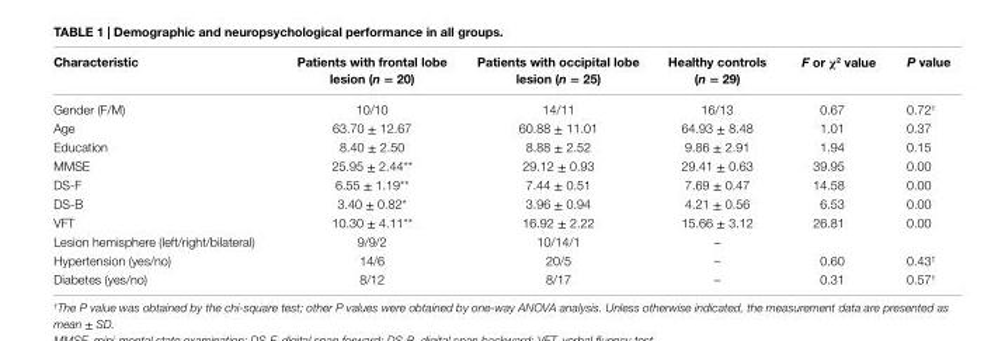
<table><thead><tr><td>characteristic</td><td>Patients with frontal lobe lesion (n = 20)</td><td>Patients with occipital lobe lesion (n = 25)</td><td>healthy controls (n = 29)</td><td>F or χ<sup>2</sup> value</td><td>P value</td></tr></thead><tbody><tr><td>Gender (F/M)</td><td>10/10</td><td>14/11</td><td>16/13</td><td>0.67</td><td>0.72<sup>†</sup></td></tr><tr><td>Age</td><td>63.70 ± 12.67</td><td>60.88 ± 11.01</td><td>64.93 ± 8.48</td><td>1.01</td><td>0.37</td></tr><tr><td>Education</td><td>8.40 ± 2.50</td><td>8.88 ± 2.52</td><td>9.86 ± 2.91</td><td>1.94</td><td>0.15</td></tr><tr><td>MMSE</td><td>25.95 ± 2.44**</td><td>29.12 ± 0.93</td><td>29.41 ± 0.63</td><td>39.95</td><td>0.00</td></tr><tr><td>DS-F</td><td>6.55 ± 1.19**</td><td>7.44 ± 0.51</td><td>7.69 ± 0.47</td><td>14.58</td><td>0.00</td></tr><tr><td>DS-B</td><td>3.40 ± 0.82*</td><td>3.96 ± 0.94</td><td>4.21 ± 0.56</td><td>6.53</td><td>0.00</td></tr><tr><td>VFT</td><td>10.30 ± 4.11**</td><td>16.92 ± 2.22</td><td>15.66 ± 3.12</td><td>26.81</td><td>0.00</td></tr><tr><td>Lesion hemisphere (left/right/bilateral)</td><td>9/9/2</td><td>10/14/1</td><td>–</td><td></td><td></td></tr><tr><td>Hypertension (yes/no)</td><td>14/6</td><td>20/5</td><td>–</td><td>0.60</td><td>0.43<sup>†</sup></td></tr><tr><td>Diabetes (yes/no)</td><td>8/12</td><td>8/17</td><td>–</td><td>0.31</td><td>0.57<sup>†</sup></td></tr></tbody></table>